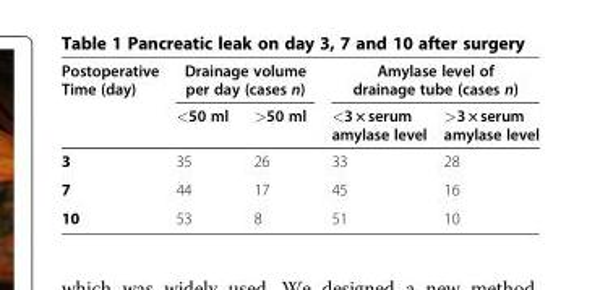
<table><thead><tr><td rowspan="2">Postoperative Time (day)</td><td colspan="2">Drainage volume per day (cases n)</td><td colspan="2">Amylase level of drainage tube (cases n)</td></tr><tr><td>&lt;50 ml</td><td>&gt;50 ml</td><td>&lt;3 × serum amylase level</td><td>&gt;3 × serum amylase level</td></tr></thead><tbody><tr><td>3</td><td>35</td><td>26</td><td>33</td><td>28</td></tr><tr><td>7</td><td>44</td><td>17</td><td>45</td><td>16</td></tr><tr><td>10</td><td>53</td><td>8</td><td>51</td><td>10</td></tr></tbody></table>